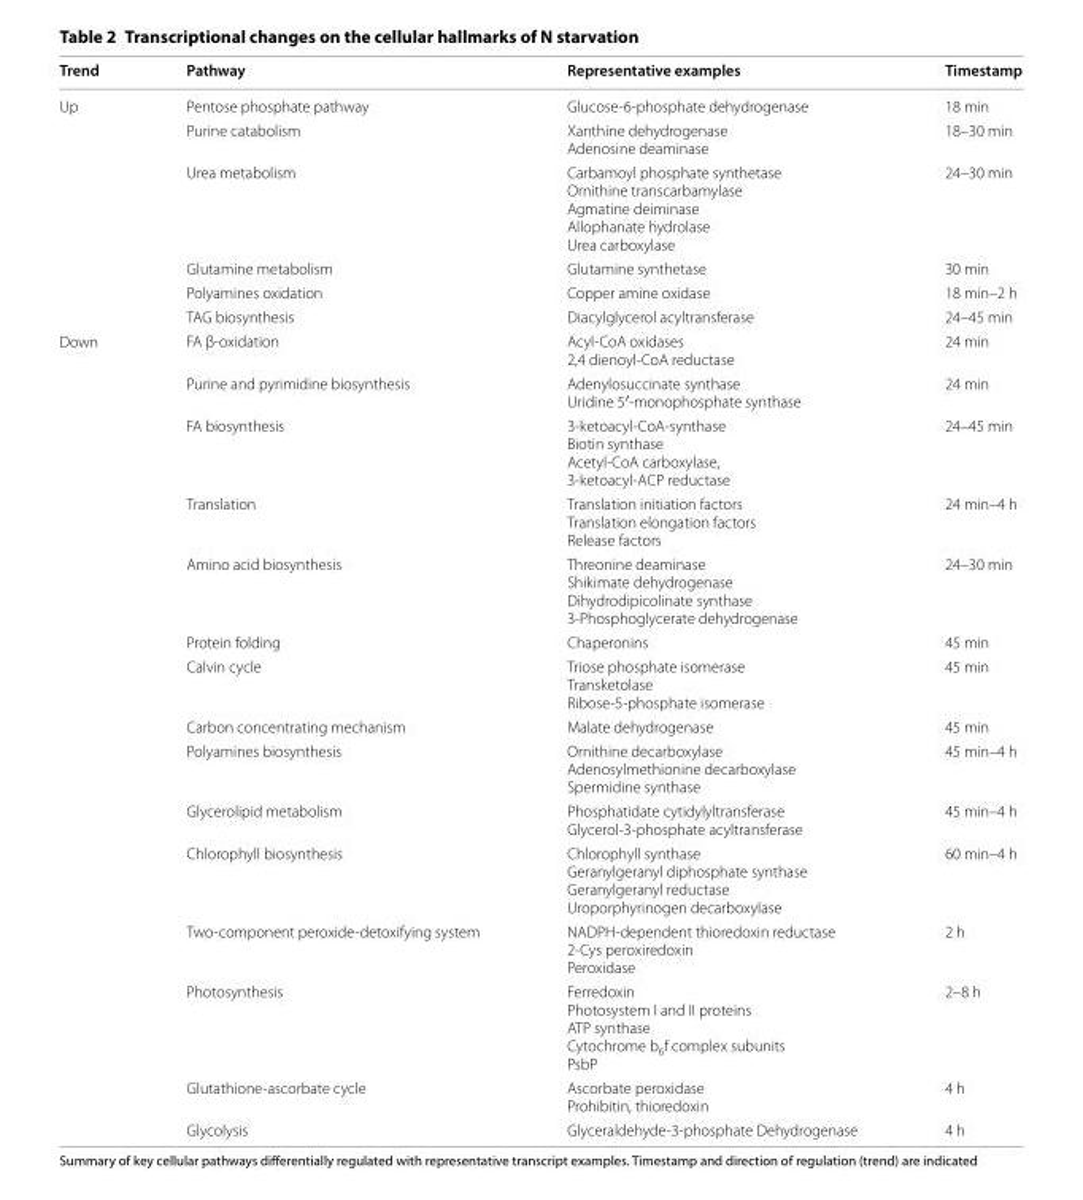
<table><thead><tr><td>Trend</td><td>Pathway</td><td>Representative examples</td><td>Timestamp</td></tr></thead><tbody><tr><td rowspan="6">Up</td><td>Pentose phosphate pathway</td><td>Glucose-6-phosphate dehydrogenase</td><td>18 min</td></tr><tr><td>Purine catabolism</td><td>Xanthine dehydrogenase Adenosine deaminase</td><td>18–30 min</td></tr><tr><td>Urea metabolism</td><td>Carbamoyl phosphate synthetase Ornithine transcarbamylase Agmatine deiminase Allophanate hydrolase Urea carboxylase</td><td>24–30 min</td></tr><tr><td>Glutamine metabolism</td><td>Glutamine synthetase</td><td>30 min</td></tr><tr><td>Polyamines oxidation</td><td>Copper amine oxidase</td><td>18 min–2 h</td></tr><tr><td>TAG biosynthesis</td><td>Diacylglycerol acyltransferase</td><td>24–45 min</td></tr><tr><td rowspan="15">Down</td><td>FA β-oxidation</td><td>Acyl-CoA oxidases 2,4 dienoyl-CoA reductase</td><td>24 min</td></tr><tr><td>Purine and pyrimidine biosynthesis</td><td>Adenylosuccinate synthase Uridine 5′-monophosphate synthase</td><td>24 min</td></tr><tr><td>FA biosynthesis</td><td>3-ketoacyl-CoA-synthase Biotin synthase Acetyl-CoA carboxylase, 3-ketoacyl-ACP reductase</td><td>24–45 min</td></tr><tr><td>Translation</td><td>Translation initiation factors Translation elongation factors Release factors</td><td>24 min–4 h</td></tr><tr><td>Amino acid biosynthesis</td><td>Threonine deaminase Shikimate dehydrogenase Dihydrodipicolinate synthase 3-Phosphoglycerate dehydrogenase</td><td>24–30 min</td></tr><tr><td>Protein folding</td><td>Chaperonins</td><td>45 min</td></tr><tr><td>Calvin cycle</td><td>Triose phosphate isomerase Transketolase Ribose-5-phosphate isomerase</td><td>45 min</td></tr><tr><td>Carbon concentrating mechanism</td><td>Malate dehydrogenase</td><td>45 min</td></tr><tr><td>Polyamines biosynthesis</td><td>Ornithine decarboxylase Adenosylmethionine decarboxylase Spermidine synthase</td><td>45 min–4 h</td></tr><tr><td>Glycerolipid metabolism</td><td>Phosphatidate cytidylyltransferase Glycerol-3-phosphate acyltransferase</td><td>45 min–4 h</td></tr><tr><td>Chlorophyll biosynthesis</td><td>Chlorophyll synthase Geranylgeranyl diphosphate synthase Geranylgeranyl reductase Uroporphyrinogen decarboxylase</td><td>60 min–4 h</td></tr><tr><td>Two-component peroxide-detoxifying system</td><td>NADPH-dependent thioredoxin reductase 2-Cys peroxiredoxin Peroxidase</td><td>2 h</td></tr><tr><td>Photosynthesis</td><td>Ferredoxin Photosystem I and II proteins ATP synthase Cytochrome b<sub>6</sub>f complex subunits PsbP</td><td>2–8 h</td></tr><tr><td>Glutathione-ascorbate cycle</td><td>Ascorbate peroxidase Prohibitin, thioredoxin</td><td>4 h</td></tr><tr><td>Glycolysis</td><td>Glyceraldehyde-3-phosphate Dehydrogenase</td><td>4 h</td></tr></tbody></table>